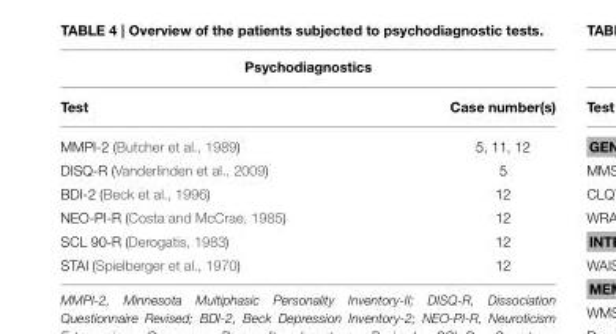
<table><thead><tr><td colspan="2">Psychodiagnostics</td></tr><tr><td>Test</td><td>Case number(s)</td></tr></thead><tbody><tr><td>MMPI-2 (Butcher et al., 1989)</td><td>5, 11, 12</td></tr><tr><td>DISQ-R (Vanderlinden et al., 2009)</td><td>5</td></tr><tr><td>BDI-2 (Beck et al., 1996)</td><td>12</td></tr><tr><td>NEO-PI-R (Costa and McCrae, 1985)</td><td>12</td></tr><tr><td>SCL 90-R (Derogatis, 1983)</td><td>12</td></tr><tr><td>STAI (Spielberger et al., 1970)</td><td>12</td></tr></tbody></table>